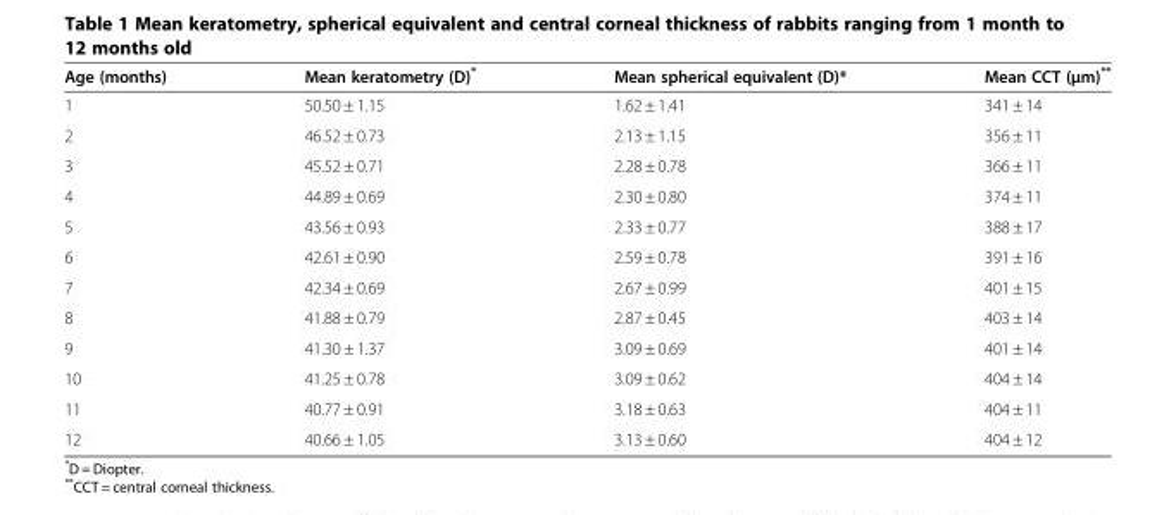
<table><thead><tr><td>Age (months)</td><td>Mean keratometry (D)*</td><td>Mean spherical equivalent (D)*</td><td>Mean CCT (μm)**</td></tr></thead><tbody><tr><td>1</td><td>50.50 ± 1.15</td><td>1.62 ± 1.41</td><td>341 ± 14</td></tr><tr><td>2</td><td>46.52 ± 0.73</td><td>2.13 ± 1.15</td><td>356 ± 11</td></tr><tr><td>3</td><td>45.52 ± 0.71</td><td>2.28 ± 0.78</td><td>366 ± 11</td></tr><tr><td>4</td><td>44.89 ± 0.69</td><td>2.30 ± 0.80</td><td>374 ± 11</td></tr><tr><td>5</td><td>43.56 ± 0.93</td><td>2.33 ± 0.77</td><td>388 ± 17</td></tr><tr><td>6</td><td>42.61 ± 0.90</td><td>2.59 ± 0.78</td><td>391 ± 16</td></tr><tr><td>7</td><td>42.34 ± 0.69</td><td>2.67 ± 0.99</td><td>401 ± 15</td></tr><tr><td>8</td><td>41.88 ± 0.79</td><td>2.87 ± 0.45</td><td>403 ± 14</td></tr><tr><td>9</td><td>41.30 ± 1.37</td><td>3.09 ± 0.69</td><td>401 ± 14</td></tr><tr><td>10</td><td>41.25 ± 0.78</td><td>3.09 ± 0.62</td><td>404 ± 14</td></tr><tr><td>11</td><td>40.77 ± 0.91</td><td>3.18 ± 0.63</td><td>404 ± 11</td></tr><tr><td>12</td><td>40.66 ± 1.05</td><td>3.13 ± 0.60</td><td>404 ± 12</td></tr></tbody></table>